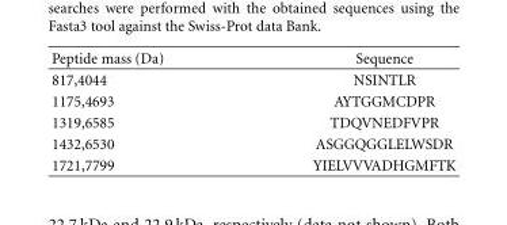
<table><thead><tr><td>Peptide mass (Da)</td><td>Sequence</td></tr></thead><tbody><tr><td>817,4044</td><td>NSINTLR</td></tr><tr><td>1175,4693</td><td>AYTGGMCDPR</td></tr><tr><td>1319,6585</td><td>TDQVNEDFVPR</td></tr><tr><td>1432,6530</td><td>ASGGQGGLELWSDR</td></tr><tr><td>1721,7799</td><td>YIELVVVADHGMFTK</td></tr></tbody></table>